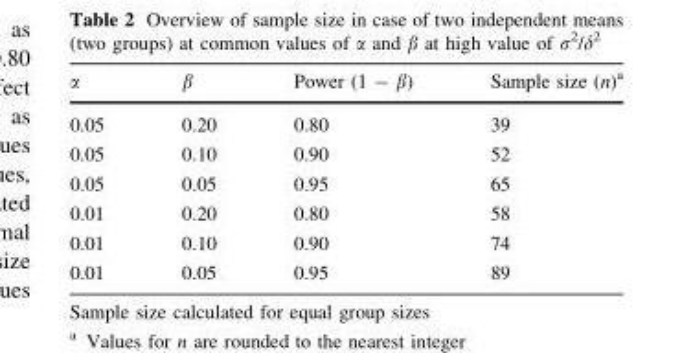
<table><thead><tr><td>α</td><td>β</td><td>Power (1 - β)</td><td>Sample size (n)<sup>a</sup></td></tr></thead><tbody><tr><td>0.05</td><td>0.20</td><td>0.80</td><td>39</td></tr><tr><td>0.05</td><td>0.10</td><td>0.90</td><td>52</td></tr><tr><td>0.05</td><td>0.05</td><td>0.95</td><td>65</td></tr><tr><td>0.01</td><td>0.20</td><td>0.80</td><td>58</td></tr><tr><td>0.01</td><td>0.10</td><td>0.90</td><td>74</td></tr><tr><td>0.01</td><td>0.05</td><td>0.95</td><td>89</td></tr></tbody></table>